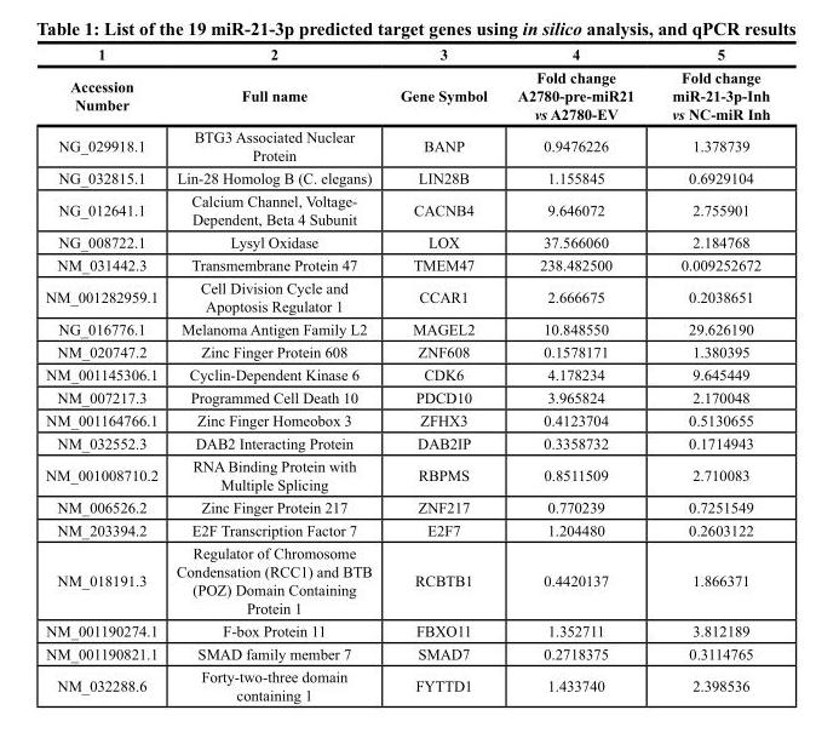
<table><thead><tr><td rowspan="2">1 Accession Number</td><td rowspan="2">2 Full name</td><td rowspan="2">3 Gene Symbol</td><td rowspan="2">4 Fold change A2780-pre-miR21 vs A2780-EV</td><td rowspan="2">5 Fold change miR-21-3p-Inh vs NC-miR Inh</td></tr><tr></tr></thead><tbody><tr><td>NG_029918.1</td><td>BTG3 Associated Nuclear Protein</td><td>BANP</td><td>0.9476226</td><td>1.378739</td></tr><tr><td>NG_032815.1</td><td>Lin-28 Homolog B (C. elegans)</td><td>LIN28B</td><td>1.155845</td><td>0.6929104</td></tr><tr><td>NG_012641.1</td><td>Calcium Channel, Voltage- Dependent, Beta 4 Subunit</td><td>CACNB4</td><td>9.646072</td><td>2.755901</td></tr><tr><td>NG_008722.1</td><td>Lysyl Oxidase</td><td>LOX</td><td>37.566060</td><td>2.184768</td></tr><tr><td>NM_031442.3</td><td>Transmembrane Protein 47</td><td>TMEM47</td><td>238.482500</td><td>0.009252672</td></tr><tr><td>NM_001282959.1</td><td>Cell Division Cycle and Apoptosis Regulator 1</td><td>CCAR1</td><td>2.666675</td><td>0.2038651</td></tr><tr><td>NG_016776.1</td><td>Melanoma Antigen Family L2</td><td>MAGEL2</td><td>10.848550</td><td>29.626190</td></tr><tr><td>NM_020747.2</td><td>Zinc Finger Protein 608</td><td>ZNF608</td><td>0.1578171</td><td>1.380395</td></tr><tr><td>NM_001145306.1</td><td>Cyclin-Dependent Kinase 6</td><td>CDK6</td><td>4.178234</td><td>9.645449</td></tr><tr><td>NM_007217.3</td><td>Programmed Cell Death 10</td><td>PDCD10</td><td>3.965824</td><td>2.170048</td></tr><tr><td>NM_001164766.1</td><td>Zinc Finger Homeobox 3</td><td>ZFHX3</td><td>0.4123704</td><td>0.5130655</td></tr><tr><td>NM_032552.3</td><td>DAB2 Interacting Protein</td><td>DAB2IP</td><td>0.3358732</td><td>0.1714943</td></tr><tr><td>NM_001008710.2</td><td>RNA Binding Protein with Multiple Splicing</td><td>RBPMS</td><td>0.8511509</td><td>2.710083</td></tr><tr><td>NM_006526.2</td><td>Zinc Finger Protein 217</td><td>ZNF217</td><td>0.770239</td><td>0.7251549</td></tr><tr><td>NM_203394.2</td><td>E2F Transcription Factor 7</td><td>E2F7</td><td>1.204480</td><td>0.2603122</td></tr><tr><td>NM_018191.3</td><td>Regulator of Chromosome Condensation (RCC1) and BTB (POZ) Domain Containing Protein 1</td><td>RCBTB1</td><td>0.4420137</td><td>1.866371</td></tr><tr><td>NM_001190274.1</td><td>F-box Protein 11</td><td>FBXO11</td><td>1.352711</td><td>3.812189</td></tr><tr><td>NM_001190821.1</td><td>SMAD family member 7</td><td>SMAD7</td><td>0.2718375</td><td>0.3114765</td></tr><tr><td>NM_032288.6</td><td>Forty-two-three domain containing 1</td><td>FYTTD1</td><td>1.433740</td><td>2.398536</td></tr></tbody></table>